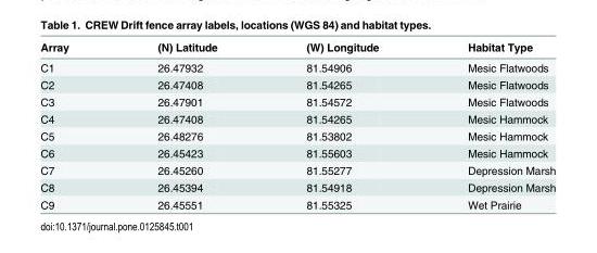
<table><thead><tr><td>Array</td><td>(N) Latitude</td><td>(W) Longitude</td><td>Habitat Type</td></tr></thead><tbody><tr><td>C1</td><td>26.47932</td><td>81.54906</td><td>Mesic Flatwoods</td></tr><tr><td>C2</td><td>26.47408</td><td>81.54265</td><td>Mesic Flatwoods</td></tr><tr><td>C3</td><td>26.47901</td><td>81.54572</td><td>Mesic Flatwoods</td></tr><tr><td>C4</td><td>26.47408</td><td>81.54265</td><td>Mesic Hammock</td></tr><tr><td>C5</td><td>26.48276</td><td>81.53802</td><td>Mesic Hammock</td></tr><tr><td>C6</td><td>26.45423</td><td>81.55603</td><td>Mesic Hammock</td></tr><tr><td>C7</td><td>26.45260</td><td>81.55277</td><td>Depression Marsh</td></tr><tr><td>C8</td><td>26.45394</td><td>81.54918</td><td>Depression Marsh</td></tr><tr><td>C9</td><td>26.45551</td><td>81.55325</td><td>Wet Prairie</td></tr></tbody></table>